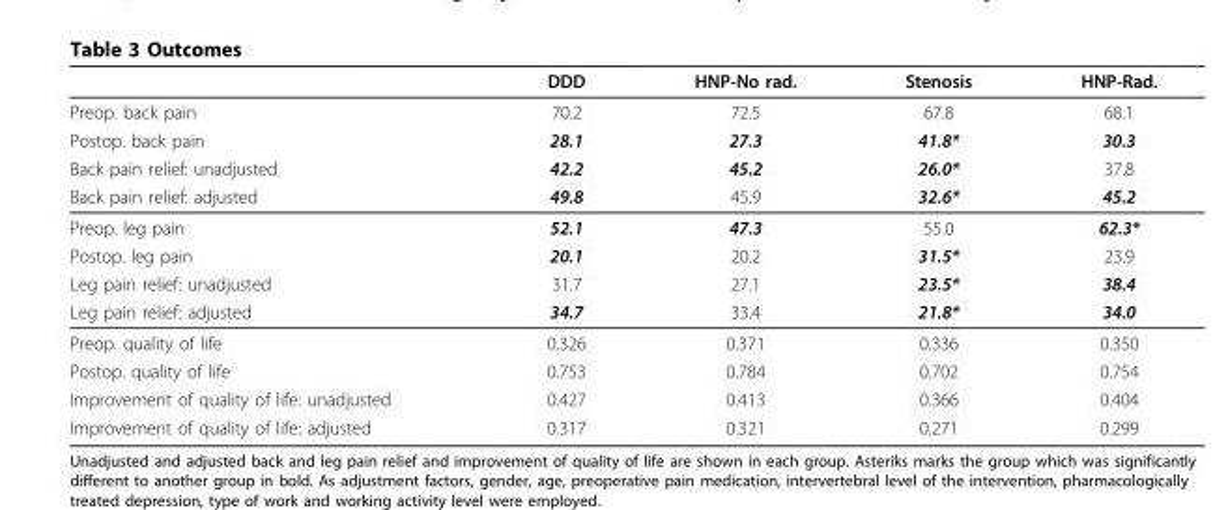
<table><thead><tr><td></td><td>DDD</td><td>HNP-No rad.</td><td>Stenosis</td><td>HNP-Rad.</td></tr></thead><tbody><tr><td>Preop. back pain</td><td>70.2</td><td>72.5</td><td>67.8</td><td>68.1</td></tr><tr><td>Postop. back pain</td><td>28.1</td><td>27.3</td><td>41.8*</td><td>30.3</td></tr><tr><td>Back pain relief: unadjusted</td><td>42.2</td><td>45.2</td><td>26.0*</td><td>37.8</td></tr><tr><td>Back pain relief: adjusted</td><td>49.8</td><td>45.9</td><td>32.6*</td><td>45.2</td></tr><tr><td>Preop. leg pain</td><td>52.1</td><td>47.3</td><td>55.0</td><td>62.3*</td></tr><tr><td>Postop. leg pain</td><td>20.1</td><td>20.2</td><td>31.5*</td><td>23.9</td></tr><tr><td>Leg pain relief: unadjusted</td><td>31.7</td><td>27.1</td><td>23.5*</td><td>38.4</td></tr><tr><td>Leg pain relief: adjusted</td><td>34.7</td><td>33.4</td><td>21.8*</td><td>34.0</td></tr><tr><td>Preop. quality of life</td><td>0.326</td><td>0.371</td><td>0.336</td><td>0.350</td></tr><tr><td>Postop. quality of life</td><td>0.753</td><td>0.784</td><td>0.702</td><td>0.754</td></tr><tr><td>Improvement of quality of life: unadjusted</td><td>0.427</td><td>0.413</td><td>0.366</td><td>0.404</td></tr><tr><td>Improvement of quality of life: adjusted</td><td>0.317</td><td>0.321</td><td>0.271</td><td>0.299</td></tr></tbody></table>